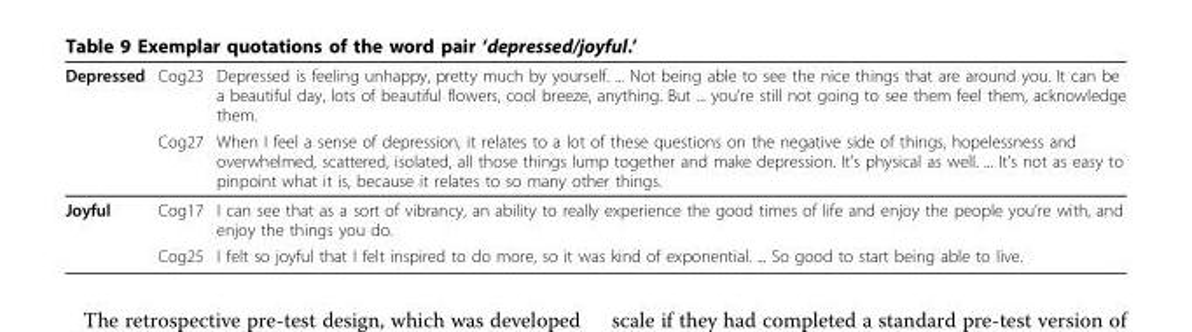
<table><thead><tr><td rowspan="2">Depressed</td><td rowspan="2">Cog23 Cog27</td><td rowspan="2">Depressed is feeling unhappy, pretty much by yourself. ... Not being able to see the nice things that are around you. It can be a beautiful day, lots of beautiful flowers, cool breeze, anything. But ... you’re still not going to see them feel them, acknowledge them. When I feel a sense of depression, it relates to a lot of these questions on the negative side of things, hopelessness and overwhelmed, scattered, isolated, all those things lump together and make depression. It’s physical as well. ... It’s not as easy to pinpoint what it is, because it relates to so many other things.</td></tr><tr></tr></thead><tbody><tr><td rowspan="2">Joyful</td><td>Cog17</td><td>I can see that as a sort of vibrancy, an ability to really experience the good times of life and enjoy the people you’re with, and enjoy the things you do.</td></tr><tr><td>Cog25</td><td>I felt so joyful that I felt inspired to do more, so it was kind of exponential. ... So good to start being able to live.</td></tr></tbody></table>